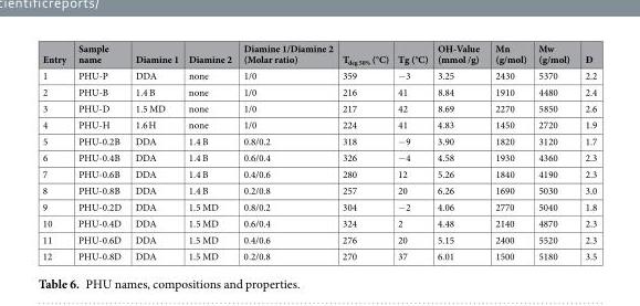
<table><thead><tr><td>Entry</td><td>Sample name</td><td>Diamine 1</td><td>Diamine 2</td><td>Diamine 1/Diamine 2 (Molar ratio)</td><td>T<sub>deg 50%</sub> (°C)</td><td>Tg (°C)</td><td>OH-Value (mmol /g)</td><td>Mn (g/mol)</td><td>Mw (g/mol)</td><td>Đ</td></tr></thead><tbody><tr><td>1</td><td>PHU-P</td><td>DDA</td><td>none</td><td>1/0</td><td>359</td><td>−3</td><td>3.25</td><td>2430</td><td>5370</td><td>2.2</td></tr><tr><td>2</td><td>PHU-B</td><td>1.4 B</td><td>none</td><td>1/0</td><td>216</td><td>41</td><td>8.84</td><td>1910</td><td>4480</td><td>2.4</td></tr><tr><td>3</td><td>PHU-D</td><td>1.5 MD</td><td>none</td><td>1/0</td><td>217</td><td>42</td><td>8.69</td><td>2270</td><td>5850</td><td>2.6</td></tr><tr><td>4</td><td>PHU-H</td><td>1.6 H</td><td>none</td><td>1/0</td><td>224</td><td>41</td><td>4.83</td><td>1450</td><td>2720</td><td>1.9</td></tr><tr><td>5</td><td>PHU-0.2B</td><td>DDA</td><td>1.4 B</td><td>0.8/0.2</td><td>318</td><td>−9</td><td>3.90</td><td>1820</td><td>3120</td><td>1.7</td></tr><tr><td>6</td><td>PHU-0.4B</td><td>DDA</td><td>1.4 B</td><td>0.6/0.4</td><td>326</td><td>−4</td><td>4.58</td><td>1930</td><td>4360</td><td>2.3</td></tr><tr><td>7</td><td>PHU-0.6B</td><td>DDA</td><td>1.4 B</td><td>0.4/0.6</td><td>280</td><td>12</td><td>5.26</td><td>1840</td><td>4190</td><td>2.3</td></tr><tr><td>8</td><td>PHU-0.8B</td><td>DDA</td><td>1.4 B</td><td>0.2/0.8</td><td>257</td><td>20</td><td>6.26</td><td>1690</td><td>5030</td><td>3.0</td></tr><tr><td>9</td><td>PHU-0.2D</td><td>DDA</td><td>1.5 MD</td><td>0.8/0.2</td><td>304</td><td>−2</td><td>4.06</td><td>2770</td><td>5040</td><td>1.8</td></tr><tr><td>10</td><td>PHU-0.4D</td><td>DDA</td><td>1.5 MD</td><td>0.6/0.4</td><td>324</td><td>2</td><td>4.48</td><td>2140</td><td>4870</td><td>2.3</td></tr><tr><td>11</td><td>PHU-0.6D</td><td>DDA</td><td>1.5 MD</td><td>0.4/0.6</td><td>276</td><td>20</td><td>5.15</td><td>2400</td><td>5520</td><td>2.3</td></tr><tr><td>12</td><td>PHU-0.8D</td><td>DDA</td><td>1.5 MD</td><td>0.2/0.8</td><td>270</td><td>37</td><td>6.01</td><td>1500</td><td>5180</td><td>3.5</td></tr></tbody></table>